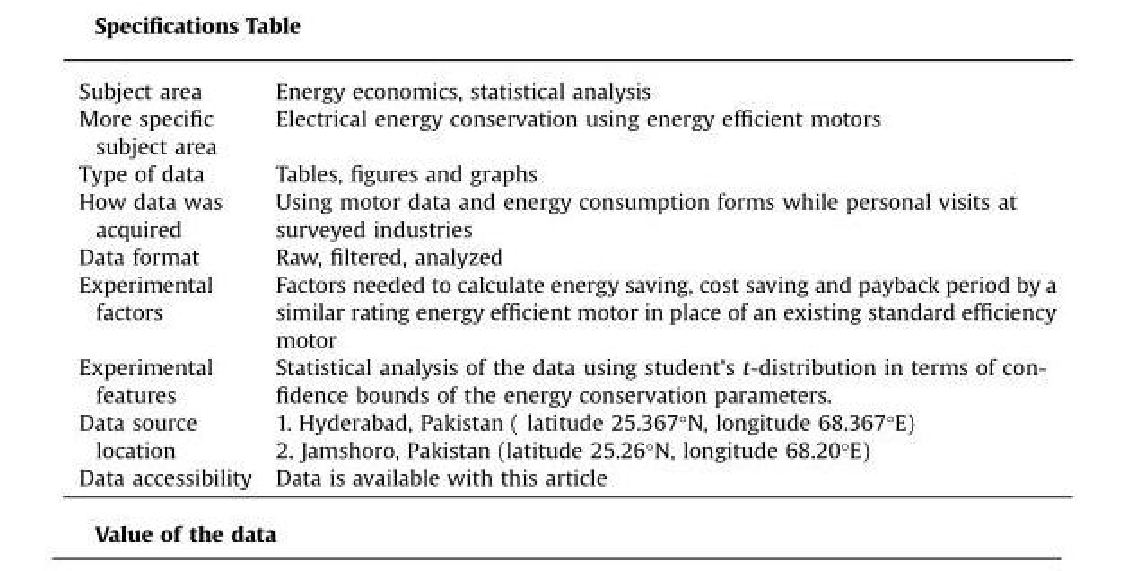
<table><tbody><tr><td>Subject area</td><td>Energy economics, statistical analysis</td></tr><tr><td>More specific subject area</td><td>Electrical energy conservation using energy efficient motors</td></tr><tr><td>Type of data</td><td>Tables, figures and graphs</td></tr><tr><td>How data was acquired</td><td>Using motor data and energy consumption forms while personal visits at surveyed industries</td></tr><tr><td>Data format</td><td>Raw, filtered, analyzed</td></tr><tr><td>Experimental factors</td><td>Factors needed to calculate energy saving, cost saving and payback period by a similar rating energy efficient motor in place of an existing standard efficiency motor</td></tr><tr><td>Experimental features</td><td>Statistical analysis of the data using student&#x27;s t-distribution in terms of con- fidence bounds of the energy conservation parameters.</td></tr><tr><td rowspan="2">Data source location</td><td>1. Hyderabad, Pakistan ( latitude 25.367°N, longitude 68.367°E)</td></tr><tr><td>2. Jamshoro, Pakistan (latitude 25.26°N, longitude 68.20°E)</td></tr><tr><td>Data accessibility</td><td>Data is available with this article</td></tr></tbody></table>